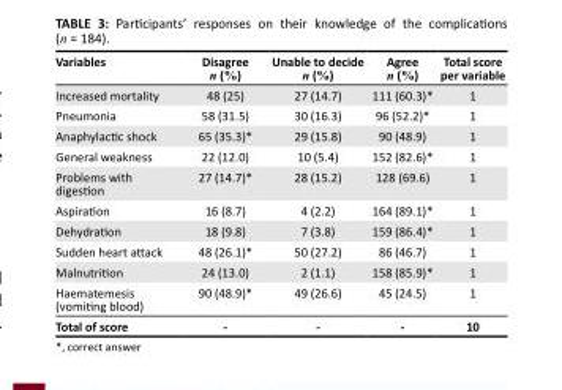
<table><thead><tr><td>Variables</td><td>Disagree n (%)</td><td>Unable to decide n (%)</td><td>Agree n (%)</td><td>Total score per variable</td></tr></thead><tbody><tr><td>Increased mortality</td><td>48 (25)</td><td>27 (14.7)</td><td>111 (60.3)*</td><td>1</td></tr><tr><td>Pneumonia</td><td>58 (31.5)</td><td>30 (16.3)</td><td>96 (52.2)*</td><td>1</td></tr><tr><td>Anaphylactic shock</td><td>65 (35.3)*</td><td>29 (15.8)</td><td>90 (48.9)</td><td>1</td></tr><tr><td>General weakness</td><td>22 (12.0)</td><td>10 (5.4)</td><td>152 (82.6)*</td><td>1</td></tr><tr><td>Problems with digestion</td><td>27 (14.7)*</td><td>28 (15.2)</td><td>128 (69.6)</td><td>1</td></tr><tr><td>Aspiration</td><td>16 (8.7)</td><td>4 (2.2)</td><td>164 (89.1)*</td><td>1</td></tr><tr><td>Dehydration</td><td>18 (9.8)</td><td>7 (3.8)</td><td>159 (86.4)*</td><td>1</td></tr><tr><td>Sudden heart attack</td><td>48 (26.1)*</td><td>50 (27.2)</td><td>86 (46.7)</td><td>1</td></tr><tr><td>Malnutrition</td><td>24 (13.0)</td><td>2 (1.1)</td><td>158 (85.9)*</td><td>1</td></tr><tr><td>Haematemesis (vomiting blood)</td><td>90 (48.9)*</td><td>49 (26.6)</td><td>45 (24.5)</td><td>1</td></tr><tr><td>Total of score</td><td>-</td><td>-</td><td>-</td><td>10</td></tr></tbody></table>